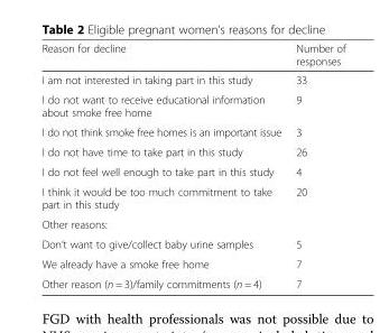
<table><thead><tr><td>Reason for decline</td><td>Number of responses</td></tr></thead><tbody><tr><td>I am not interested in taking part in this study</td><td>33</td></tr><tr><td>I do not want to receive educational information about smoke free home</td><td>9</td></tr><tr><td>I do not think smoke free homes is an important issue</td><td>3</td></tr><tr><td>I do not have time to take part in this study</td><td>26</td></tr><tr><td>I do not feel well enough to take part in this study</td><td>4</td></tr><tr><td>I think it would be too much commitment to take part in this study</td><td>20</td></tr><tr><td colspan="2">Other reasons:</td></tr><tr><td>Don’t want to give/collect baby urine samples</td><td>5</td></tr><tr><td>We already have a smoke free home</td><td>7</td></tr><tr><td>Other reason (n = 3)/family commitments (n = 4)</td><td>7</td></tr></tbody></table>